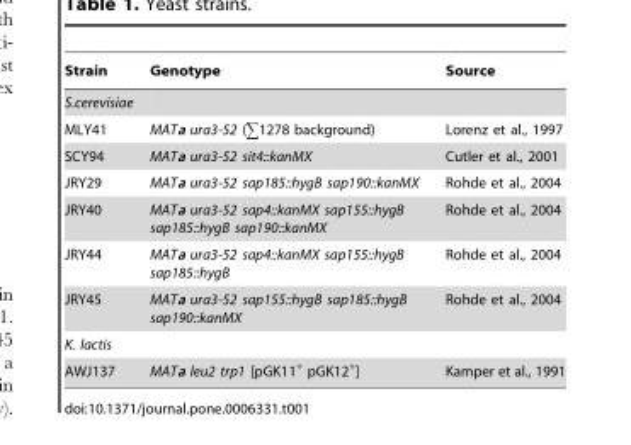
<table><thead><tr><td>Strain</td><td>Genotype</td><td>Source</td></tr></thead><tbody><tr><td colspan="3">S.cerevisiae</td></tr><tr><td>MLY41</td><td>MATa ura3-52 (∑1278 background)</td><td>Lorenz et al., 1997</td></tr><tr><td>SCY94</td><td>MATa ura3-52 sit4::kanMX</td><td>Cutler et al., 2001</td></tr><tr><td>JRY29</td><td>MATa ura3-52 sap185::hygB sap190::kanMX</td><td>Rohde et al., 2004</td></tr><tr><td>JRY40</td><td>MATa ura3-52 sap4::kanMX sap155::hygB sap185::hygB sap190::kanMX</td><td>Rohde et al., 2004</td></tr><tr><td>JRY44</td><td>MATa ura3-52 sap4::kanMX sap155::hygB sap185::hygB</td><td>Rohde et al., 2004</td></tr><tr><td>JRY45</td><td>MATa ura3-52 sap155::hygB sap185::hygB sap190::kanMX</td><td>Rohde et al., 2004</td></tr><tr><td colspan="3">K. lactis</td></tr><tr><td>AWJ137</td><td>MATa leu2 trp1 [pGK11<sup>+</sup> pGK12<sup>+</sup>]</td><td>Kamper et al., 1991</td></tr></tbody></table>